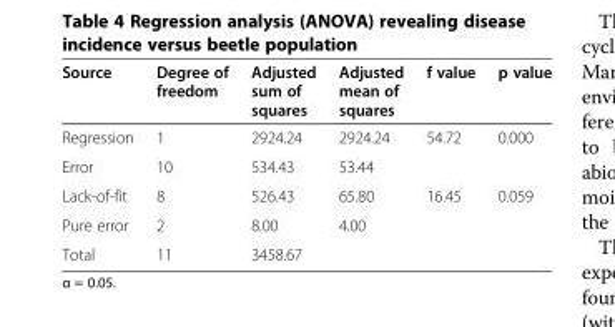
<table><thead><tr><td>Source</td><td>Degree of freedom</td><td>Adjusted sum of squares</td><td>Adjusted mean of squares</td><td>f value</td><td>p value</td></tr></thead><tbody><tr><td>Regression</td><td>1</td><td>2924.24</td><td>2924.24</td><td>54.72</td><td>0.000</td></tr><tr><td>Error</td><td>10</td><td>534.43</td><td>53.44</td><td></td><td></td></tr><tr><td>Lack-of-fit</td><td>8</td><td>526.43</td><td>65.80</td><td>16.45</td><td>0.059</td></tr><tr><td>Pure error</td><td>2</td><td>8.00</td><td>4.00</td><td></td><td></td></tr><tr><td>Total</td><td>11</td><td>3458.67</td><td></td><td></td><td></td></tr></tbody></table>